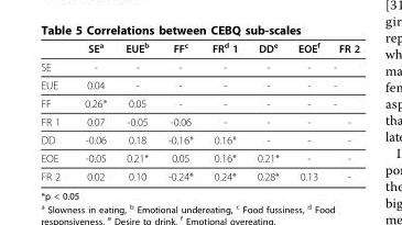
<table><thead><tr><td></td><td>SE<sup>a</sup></td><td>EUE<sup>b</sup></td><td>FF<sup>c</sup></td><td>FR<sup>d</sup> 1</td><td>DD<sup>e</sup></td><td>EOE<sup>f</sup></td><td>FR 2</td></tr></thead><tbody><tr><td>SE</td><td>-</td><td>-</td><td>-</td><td>-</td><td>-</td><td>-</td><td>-</td></tr><tr><td>EUE</td><td>0.04</td><td>-</td><td>-</td><td>-</td><td>-</td><td>-</td><td>-</td></tr><tr><td>FF</td><td>0.26*</td><td>0.05</td><td>-</td><td>-</td><td>-</td><td>-</td><td>-</td></tr><tr><td>FR 1</td><td>0.07</td><td>-0.05</td><td>-0.06</td><td>-</td><td>-</td><td>-</td><td>-</td></tr><tr><td>DD</td><td>-0.06</td><td>0.18</td><td>-0.16*</td><td>0.16*</td><td>-</td><td>-</td><td>-</td></tr><tr><td>EOE</td><td>-0.05</td><td>0.21*</td><td>0.05</td><td>0.16*</td><td>0.21*</td><td>-</td><td>-</td></tr><tr><td>FR 2</td><td>0.02</td><td>0.10</td><td>-0.24*</td><td>0.24*</td><td>0.28*</td><td>0.13</td><td>-</td></tr></tbody></table>